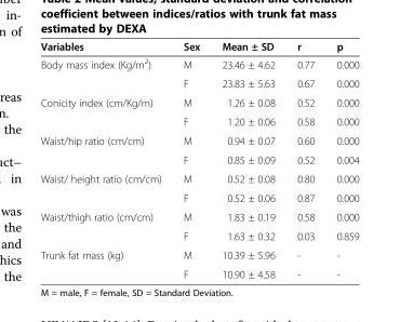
<table><thead><tr><td>Variables</td><td>Sex</td><td>Mean ± SD</td><td>r</td><td>p</td></tr></thead><tbody><tr><td rowspan="2">Body mass índex (Kg/m<sup>2</sup>)</td><td>M</td><td>23.46 ± 4.62</td><td>0.77</td><td>0.000</td></tr><tr><td>F</td><td>23.83 ± 5.63</td><td>0.67</td><td>0.000</td></tr><tr><td rowspan="2">Conicity index (cm/Kg/m)</td><td>M</td><td>1.26 ± 0.08</td><td>0.52</td><td>0.000</td></tr><tr><td>F</td><td>1.20 ± 0.06</td><td>0.58</td><td>0.000</td></tr><tr><td rowspan="2">Waist/hip ratio (cm/cm)</td><td>M</td><td>0.94 ± 0.07</td><td>0.60</td><td>0.000</td></tr><tr><td>F</td><td>0.85 ± 0.09</td><td>0.52</td><td>0.004</td></tr><tr><td rowspan="2">Waist/ height ratio (cm/cm)</td><td>M</td><td>0.52 ± 0.08</td><td>0.80</td><td>0.000</td></tr><tr><td>F</td><td>0.52 ± 0.06</td><td>0.87</td><td>0.000</td></tr><tr><td rowspan="2">Waist/thigh ratio (cm/cm)</td><td>M</td><td>1.83 ± 0.19</td><td>0.58</td><td>0.000</td></tr><tr><td>F</td><td>1.63 ± 0.32</td><td>0.03</td><td>0.859</td></tr><tr><td rowspan="2">Trunk fat mass (kg)</td><td>M</td><td>10.39 ± 5.96</td><td>-</td><td>-</td></tr><tr><td>F</td><td>10.90 ± 4.58</td><td>-</td><td>-</td></tr></tbody></table>